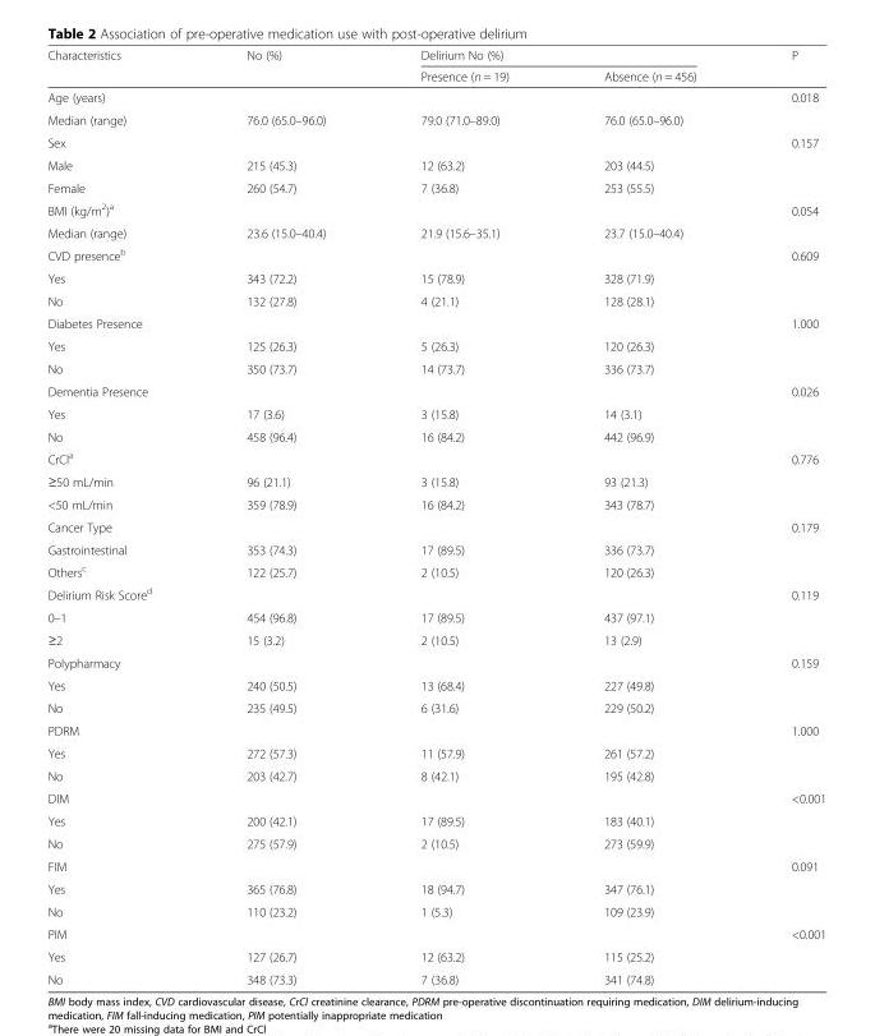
<table><thead><tr><td rowspan="2">Characteristics</td><td rowspan="2">No (%)</td><td colspan="2">Delirium No (%)</td><td rowspan="2">P</td></tr><tr><td>Presence (n = 19)</td><td>Absence (n = 456)</td></tr></thead><tbody><tr><td>Age (years)</td><td></td><td></td><td></td><td>0.018</td></tr><tr><td>Median (range)</td><td>76.0 (65.0–96.0)</td><td>79.0 (71.0–89.0)</td><td>76.0 (65.0–96.0)</td><td></td></tr><tr><td>Sex</td><td></td><td></td><td></td><td>0.157</td></tr><tr><td>Male</td><td>215 (45.3)</td><td>12 (63.2)</td><td>203 (44.5)</td><td></td></tr><tr><td>Female</td><td>260 (54.7)</td><td>7 (36.8)</td><td>253 (55.5)</td><td></td></tr><tr><td>BMI (kg/m<sup>2</sup>)<sup>a</sup></td><td></td><td></td><td></td><td>0.054</td></tr><tr><td>Median (range)</td><td>23.6 (15.0–40.4)</td><td>21.9 (15.6–35.1)</td><td>23.7 (15.0–40.4)</td><td></td></tr><tr><td>CVD presence<sup>b</sup></td><td></td><td></td><td></td><td>0.609</td></tr><tr><td>Yes</td><td>343 (72.2)</td><td>15 (78.9)</td><td>328 (71.9)</td><td></td></tr><tr><td>No</td><td>132 (27.8)</td><td>4 (21.1)</td><td>128 (28.1)</td><td></td></tr><tr><td>Diabetes Presence</td><td></td><td></td><td></td><td>1.000</td></tr><tr><td>Yes</td><td>125 (26.3)</td><td>5 (26.3)</td><td>120 (26.3)</td><td></td></tr><tr><td>No</td><td>350 (73.7)</td><td>14 (73.7)</td><td>336 (73.7)</td><td></td></tr><tr><td>Dementia Presence</td><td></td><td></td><td></td><td>0.026</td></tr><tr><td>Yes</td><td>17 (3.6)</td><td>3 (15.8)</td><td>14 (3.1)</td><td></td></tr><tr><td>No</td><td>458 (96.4)</td><td>16 (84.2)</td><td>442 (96.9)</td><td></td></tr><tr><td>CrCl<sup>a</sup></td><td></td><td></td><td></td><td>0.776</td></tr><tr><td>≥50 mL/min</td><td>96 (21.1)</td><td>3 (15.8)</td><td>93 (21.3)</td><td></td></tr><tr><td>&lt;50 mL/min</td><td>359 (78.9)</td><td>16 (84.2)</td><td>343 (78.7)</td><td></td></tr><tr><td>Cancer Type</td><td></td><td></td><td></td><td>0.179</td></tr><tr><td>Gastrointestinal</td><td>353 (74.3)</td><td>17 (89.5)</td><td>336 (73.7)</td><td></td></tr><tr><td>Others<sup>c</sup></td><td>122 (25.7)</td><td>2 (10.5)</td><td>120 (26.3)</td><td></td></tr><tr><td>Delirium Risk Score<sup>d</sup></td><td></td><td></td><td></td><td>0.119</td></tr><tr><td>0–1</td><td>454 (96.8)</td><td>17 (89.5)</td><td>437 (97.1)</td><td></td></tr><tr><td>≥2</td><td>15 (3.2)</td><td>2 (10.5)</td><td>13 (2.9)</td><td></td></tr><tr><td>Polypharmacy</td><td></td><td></td><td></td><td>0.159</td></tr><tr><td>Yes</td><td>240 (50.5)</td><td>13 (68.4)</td><td>227 (49.8)</td><td></td></tr><tr><td>No</td><td>235 (49.5)</td><td>6 (31.6)</td><td>229 (50.2)</td><td></td></tr><tr><td>PDRM</td><td></td><td></td><td></td><td>1.000</td></tr><tr><td>Yes</td><td>272 (57.3)</td><td>11 (57.9)</td><td>261 (57.2)</td><td></td></tr><tr><td>No</td><td>203 (42.7)</td><td>8 (42.1)</td><td>195 (42.8)</td><td></td></tr><tr><td>DIM</td><td></td><td></td><td></td><td>&lt;0.001</td></tr><tr><td>Yes</td><td>200 (42.1)</td><td>17 (89.5)</td><td>183 (40.1)</td><td></td></tr><tr><td>No</td><td>275 (57.9)</td><td>2 (10.5)</td><td>273 (59.9)</td><td></td></tr><tr><td>FIM</td><td></td><td></td><td></td><td>0.091</td></tr><tr><td>Yes</td><td>365 (76.8)</td><td>18 (94.7)</td><td>347 (76.1)</td><td></td></tr><tr><td>No</td><td>110 (23.2)</td><td>1 (5.3)</td><td>109 (23.9)</td><td></td></tr><tr><td>PIM</td><td></td><td></td><td></td><td>&lt;0.001</td></tr><tr><td>Yes</td><td>127 (26.7)</td><td>12 (63.2)</td><td>115 (25.2)</td><td></td></tr><tr><td>No</td><td>348 (73.3)</td><td>7 (36.8)</td><td>341 (74.8)</td><td></td></tr></tbody></table>